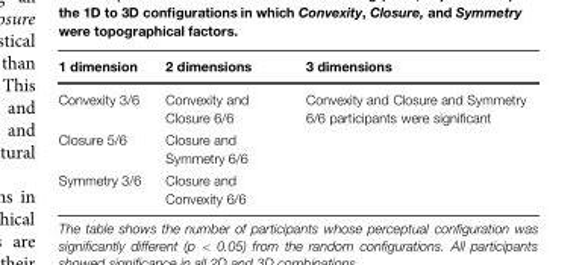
<table><thead><tr><td>1 dimension</td><td>2 dimensions</td><td>3 dimensions</td></tr></thead><tbody><tr><td>Convexity 3/6</td><td>Convexity and Closure 6/6</td><td>Convexity and Closure and Symmetry 6/6 participants were significant</td></tr><tr><td>Closure 5/6</td><td>Closure and Symmetry 6/6</td><td></td></tr><tr><td>Symmetry 3/6</td><td>Closure and Convexity 6/6</td><td></td></tr></tbody></table>